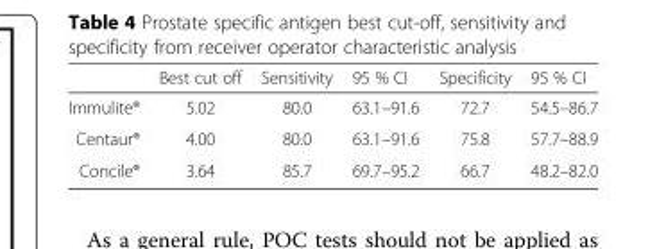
<table><thead><tr><td></td><td>Best cut off</td><td>Sensitivity</td><td>95 % CI</td><td>Specificity</td><td>95 % CI</td></tr></thead><tbody><tr><td>Immulite®</td><td>5.02</td><td>80.0</td><td>63.1–91.6</td><td>72.7</td><td>54.5–86.7</td></tr><tr><td>Centaur®</td><td>4.00</td><td>80.0</td><td>63.1–91.6</td><td>75.8</td><td>57.7–88.9</td></tr><tr><td>Concile®</td><td>3.64</td><td>85.7</td><td>69.7–95.2</td><td>66.7</td><td>48.2–82.0</td></tr></tbody></table>